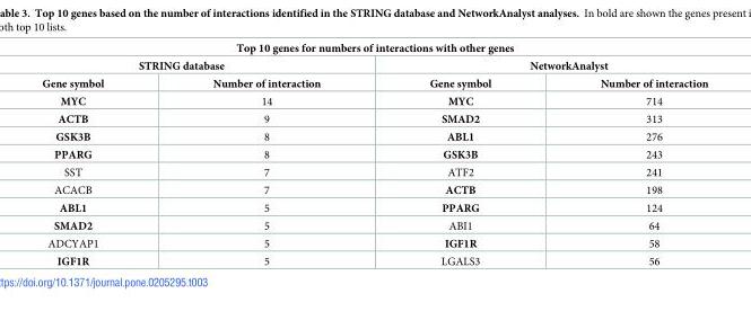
<table><thead><tr><td colspan="4">Top 10 genes for numbers of interactions with other genes</td></tr><tr><td colspan="2">STRING database</td><td colspan="2">NetworkAnalyst</td></tr><tr><td>Gene symbol</td><td>Number of interaction</td><td>Gene symbol</td><td>Number of interaction</td></tr></thead><tbody><tr><td>MYC</td><td>14</td><td>MYC</td><td>714</td></tr><tr><td>ACTB</td><td>9</td><td>SMAD2</td><td>313</td></tr><tr><td>GSK3B</td><td>8</td><td>ABL1</td><td>276</td></tr><tr><td>PPARG</td><td>8</td><td>GSK3B</td><td>243</td></tr><tr><td>SST</td><td>7</td><td>ATF2</td><td>241</td></tr><tr><td>ACACB</td><td>7</td><td>ACTB</td><td>198</td></tr><tr><td>ABL1</td><td>5</td><td>PPARG</td><td>124</td></tr><tr><td>SMAD2</td><td>5</td><td>ABI1</td><td>64</td></tr><tr><td>ADCYAP1</td><td>5</td><td>IGF1R</td><td>58</td></tr><tr><td>IGF1R</td><td>5</td><td>LGALS3</td><td>56</td></tr></tbody></table>